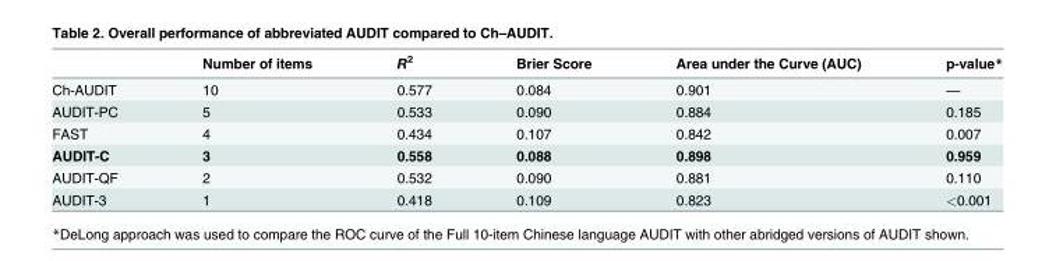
<table><thead><tr><td></td><td>Number of items</td><td>R<sup>2</sup></td><td>Brier Score</td><td>Area under the Curve (AUC)</td><td>p-value*</td></tr></thead><tbody><tr><td>Ch-AUDIT</td><td>10</td><td>0.577</td><td>0.084</td><td>0.901</td><td>—</td></tr><tr><td>AUDIT-PC</td><td>5</td><td>0.533</td><td>0.090</td><td>0.884</td><td>0.185</td></tr><tr><td>FAST</td><td>4</td><td>0.434</td><td>0.107</td><td>0.842</td><td>0.007</td></tr><tr><td>AUDIT-C</td><td>3</td><td>0.558</td><td>0.088</td><td>0.898</td><td>0.959</td></tr><tr><td>AUDIT-QF</td><td>2</td><td>0.532</td><td>0.090</td><td>0.881</td><td>0.110</td></tr><tr><td>AUDIT-3</td><td>1</td><td>0.418</td><td>0.109</td><td>0.823</td><td>&lt;0.001</td></tr></tbody></table>